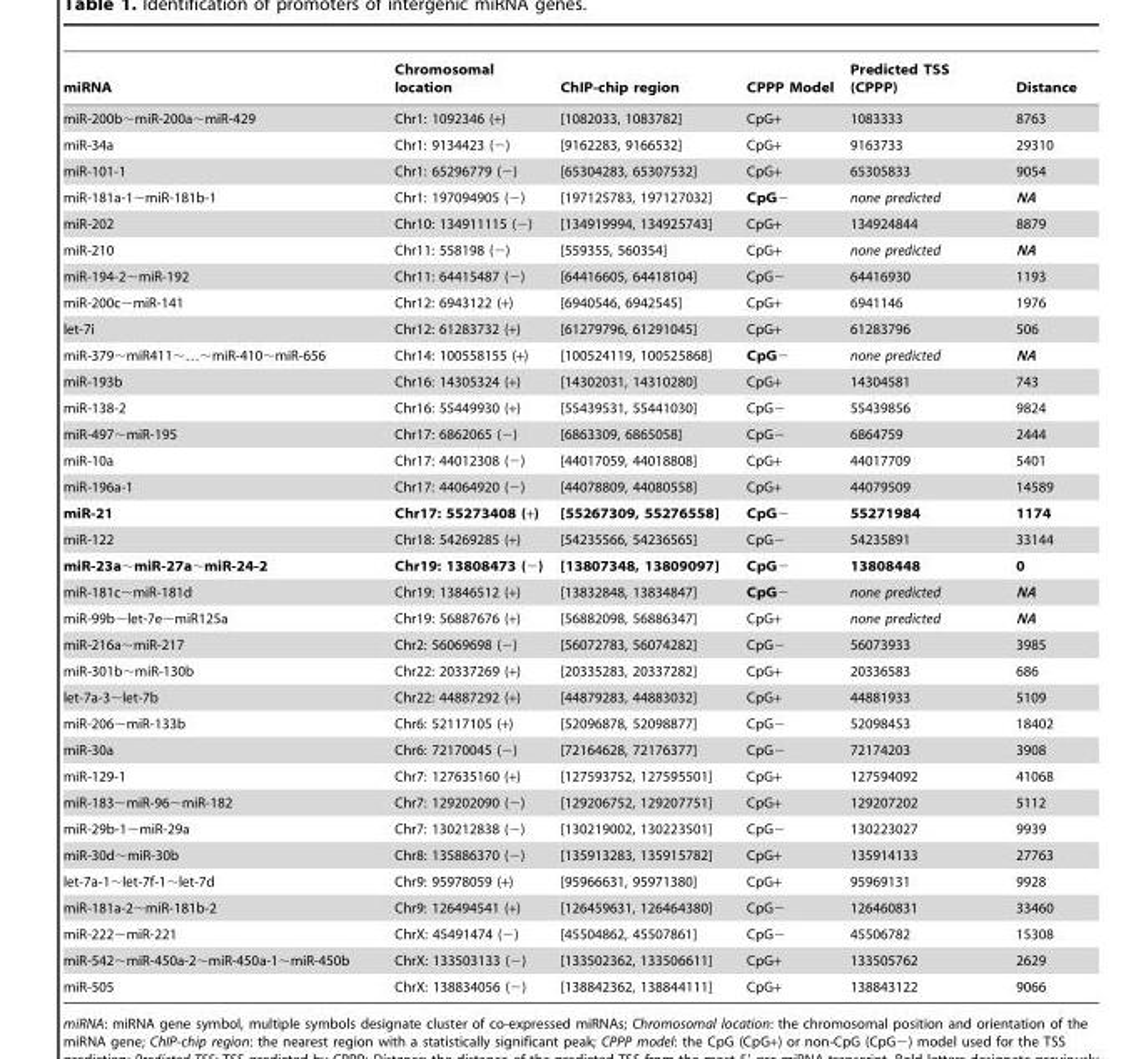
<table><thead><tr><td>miRNA</td><td>Chromosomal location</td><td>ChIP-chip region</td><td>CPPP Model</td><td>Predicted TSS (CPPP)</td><td>Distance</td></tr></thead><tbody><tr><td>miR-200b∼miR-200a∼miR-429</td><td>Chr1: 1092346 (+)</td><td>[1082033, 1083782]</td><td>CpG+</td><td>1083333</td><td>8763</td></tr><tr><td>miR-34a</td><td>Chr1: 9134423 (−)</td><td>[9162283, 9166532]</td><td>CpG+</td><td>9163733</td><td>29310</td></tr><tr><td>miR-101-1</td><td>Chr1: 65296779 (−)</td><td>[65304283, 65307532]</td><td>CpG+</td><td>65305833</td><td>9054</td></tr><tr><td>miR-181a-1∼miR-181b-1</td><td>Chr1: 197094905 (−)</td><td>[197125783, 197127032]</td><td>CpG−</td><td>none predicted</td><td>NA</td></tr><tr><td>miR-202</td><td>Chr10: 134911115 (−)</td><td>[134919994, 134925743]</td><td>CpG+</td><td>134924844</td><td>8879</td></tr><tr><td>miR-210</td><td>Chr11: 558198 (−)</td><td>[559355, 560354]</td><td>CpG+</td><td>none predicted</td><td>NA</td></tr><tr><td>miR-194-2∼miR-192</td><td>Chr11: 64415487 (−)</td><td>[64416605, 64418104]</td><td>CpG−</td><td>64416930</td><td>1193</td></tr><tr><td>miR-200c∼miR-141</td><td>Chr12: 6943122 (+)</td><td>[6940546, 6942545]</td><td>CpG+</td><td>6941146</td><td>1976</td></tr><tr><td>let-7i</td><td>Chr12: 61283732 (+)</td><td>[61279796, 61291045]</td><td>CpG+</td><td>61283796</td><td>506</td></tr><tr><td>miR-379∼miR411∼…∼miR-410∼miR-656</td><td>Chr14: 100558155 (+)</td><td>[100524119, 100525868]</td><td>CpG−</td><td>none predicted</td><td>NA</td></tr><tr><td>miR-193b</td><td>Chr16: 14305324 (+)</td><td>[14302031, 14310280]</td><td>CpG+</td><td>14304581</td><td>743</td></tr><tr><td>miR-138-2</td><td>Chr16: 55449930 (+)</td><td>[55439531, 55441030]</td><td>CpG−</td><td>55439856</td><td>9824</td></tr><tr><td>miR-497∼miR-195</td><td>Chr17: 6862065 (−)</td><td>[6863309, 6865058]</td><td>CpG−</td><td>6864759</td><td>2444</td></tr><tr><td>miR-10a</td><td>Chr17: 44012308 (−)</td><td>[44017059, 44018808]</td><td>CpG+</td><td>44017709</td><td>5401</td></tr><tr><td>miR-196a-1</td><td>Chr17: 44064920 (−)</td><td>[44078809, 44080558]</td><td>CpG+</td><td>44079509</td><td>14589</td></tr><tr><td>miR-21</td><td>Chr17: 55273408 (+)</td><td>[55267309, 55276558]</td><td>CpG−</td><td>55271984</td><td>1174</td></tr><tr><td>miR-122</td><td>Chr18: 54269285 (+)</td><td>[54235566, 54236565]</td><td>CpG−</td><td>54235891</td><td>33144</td></tr><tr><td>miR-23a∼miR-27a∼miR-24-2</td><td>Chr19: 13808473 (−)</td><td>[13807348, 13809097]</td><td>CpG−</td><td>13808448</td><td>0</td></tr><tr><td>miR-181c∼miR-181d</td><td>Chr19: 13846512 (+)</td><td>[13832848, 13834847]</td><td>CpG−</td><td>none predicted</td><td>NA</td></tr><tr><td>miR-99b∼let-7e∼miR125a</td><td>Chr19: 56887676 (+)</td><td>[56882098, 56886347]</td><td>CpG+</td><td>none predicted</td><td>NA</td></tr><tr><td>miR-216a∼miR-217</td><td>Chr2: 56069698 (−)</td><td>[56072783, 56074282]</td><td>CpG−</td><td>56073933</td><td>3985</td></tr><tr><td>miR-301b∼miR-130b</td><td>Chr22: 20337269 (+)</td><td>[20335283, 20337282]</td><td>CpG+</td><td>20336583</td><td>686</td></tr><tr><td>let-7a-3∼let-7b</td><td>Chr22: 44887292 (+)</td><td>[44879283, 44883032]</td><td>CpG+</td><td>44881933</td><td>5109</td></tr><tr><td>miR-206∼miR-133b</td><td>Chr6: 52117105 (+)</td><td>[52096878, 52098877]</td><td>CpG−</td><td>52098453</td><td>18402</td></tr><tr><td>miR-30a</td><td>Chr6: 72170045 (−)</td><td>[72164628, 72176377]</td><td>CpG−</td><td>72174203</td><td>3908</td></tr><tr><td>miR-129-1</td><td>Chr7: 127635160 (+)</td><td>[127593752, 127595501]</td><td>CpG+</td><td>127594092</td><td>41068</td></tr><tr><td>miR-183∼miR-96∼miR-182</td><td>Chr7: 129202090 (−)</td><td>[129206752, 129207751]</td><td>CpG+</td><td>129207202</td><td>5112</td></tr><tr><td>miR-29b-1∼miR-29a</td><td>Chr7: 130212838 (−)</td><td>[130219002, 130223501]</td><td>CpG−</td><td>130223027</td><td>9939</td></tr><tr><td>miR-30d∼miR-30b</td><td>Chr8: 135886370 (−)</td><td>[135913283, 135915782]</td><td>CpG+</td><td>135914133</td><td>27763</td></tr><tr><td>let-7a-1∼let-7f-1∼let-7d</td><td>Chr9: 95978059 (+)</td><td>[95966631, 95971380]</td><td>CpG+</td><td>95969131</td><td>9928</td></tr><tr><td>miR-181a-2∼miR-181b-2</td><td>Chr9: 126494541 (+)</td><td>[126459631, 126464380]</td><td>CpG−</td><td>126460831</td><td>33460</td></tr><tr><td>miR-222∼miR-221</td><td>ChrX: 45491474 (−)</td><td>[45504862, 45507861]</td><td>CpG−</td><td>45506782</td><td>15308</td></tr><tr><td>miR-542∼miR-450a-2∼miR-450a-1∼miR-450b</td><td>ChrX: 133503133 (−)</td><td>[133502362, 133506611]</td><td>CpG+</td><td>133505762</td><td>2629</td></tr><tr><td>miR-505</td><td>ChrX: 138834056 (−)</td><td>[138842362, 138844111]</td><td>CpG+</td><td>138843122</td><td>9066</td></tr></tbody></table>